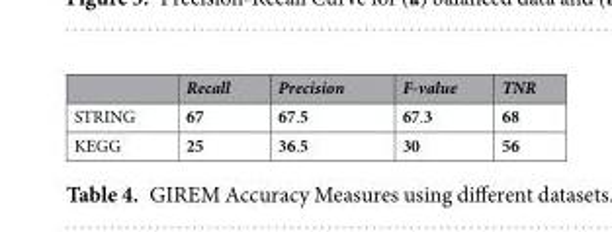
<table><thead><tr><td></td><td>Recall</td><td>Precision</td><td>F-value</td><td>TNR</td></tr></thead><tbody><tr><td>STRING</td><td>67</td><td>67.5</td><td>67.3</td><td>68</td></tr><tr><td>KEGG</td><td>25</td><td>36.5</td><td>30</td><td>56</td></tr></tbody></table>